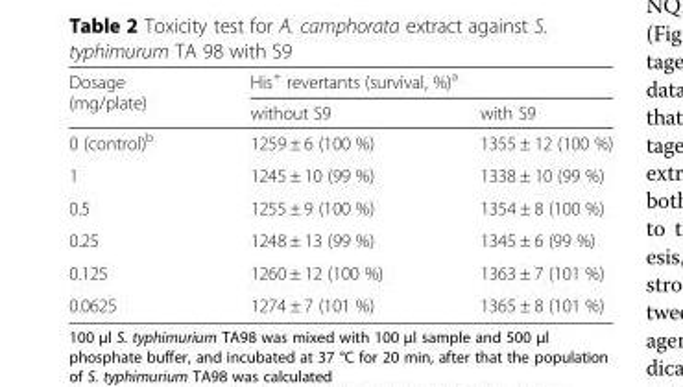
<table><thead><tr><td rowspan="2">Dosage (mg/plate)</td><td colspan="2">His<sup>+</sup> revertants (survival, %)<sup>a</sup></td></tr><tr><td>without S9</td><td>with S9</td></tr></thead><tbody><tr><td>0 (control)<sup>b</sup></td><td>1259 ± 6 (100 %)</td><td>1355 ± 12 (100 %)</td></tr><tr><td>1</td><td>1245 ± 10 (99 %)</td><td>1338 ± 10 (99 %)</td></tr><tr><td>0.5</td><td>1255 ± 9 (100 %)</td><td>1354 ± 8 (100 %)</td></tr><tr><td>0.25</td><td>1248 ± 13 (99 %)</td><td>1345 ± 6 (99 %)</td></tr><tr><td>0.125</td><td>1260 ± 12 (100 %)</td><td>1363 ± 7 (101 %)</td></tr><tr><td>0.0625</td><td>1274 ± 7 (101 %)</td><td>1365 ± 8 (101 %)</td></tr></tbody></table>